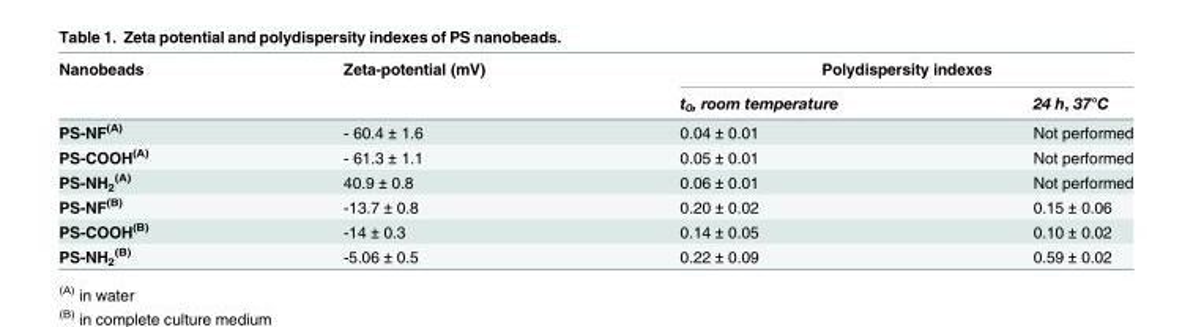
<table><thead><tr><td rowspan="2">Nanobeads</td><td rowspan="2">Zeta-potential (mV)</td><td colspan="2">Polydispersity indexes</td></tr><tr><td>t<sub>0</sub>, room temperature</td><td>24 h, 37°C</td></tr></thead><tbody><tr><td>PS-NF<sup>(A)</sup></td><td>- 60.4 ± 1.6</td><td>0.04 ± 0.01</td><td>Not performed</td></tr><tr><td>PS-COOH<sup>(A)</sup></td><td>- 61.3 ± 1.1</td><td>0.05 ± 0.01</td><td>Not performed</td></tr><tr><td>PS-NH<sub>2</sub> <sup>(A)</sup></td><td>40.9 ± 0.8</td><td>0.06 ± 0.01</td><td>Not performed</td></tr><tr><td>PS-NF<sup>(B)</sup></td><td>-13.7 ± 0.8</td><td>0.20 ± 0.02</td><td>0.15 ± 0.06</td></tr><tr><td>PS-COOH<sup>(B)</sup></td><td>-14 ± 0.3</td><td>0.14 ± 0.05</td><td>0.10 ± 0.02</td></tr><tr><td>PS-NH<sub>2</sub> <sup>(B)</sup></td><td>-5.06 ± 0.5</td><td>0.22 ± 0.09</td><td>0.59 ± 0.02</td></tr></tbody></table>